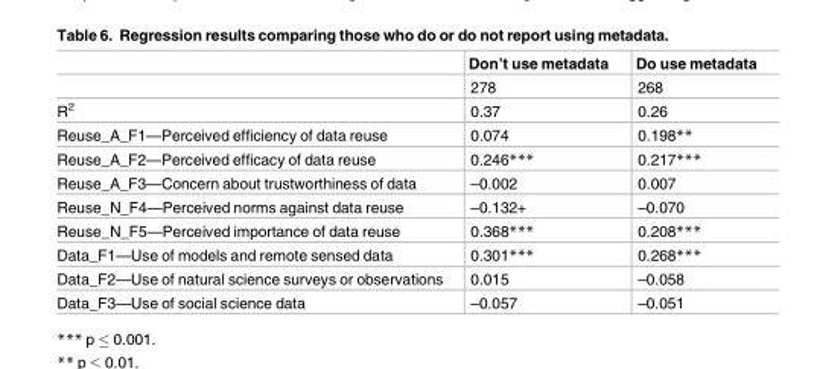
<table><thead><tr><td></td><td>Don’t use metadata</td><td>Do use metadata</td></tr></thead><tbody><tr><td></td><td>278</td><td>268</td></tr><tr><td>R<sup>2</sup></td><td>0.37</td><td>0.26</td></tr><tr><td>Reuse_A_F1—Perceived efficiency of data reuse</td><td>0.074</td><td>0.198**</td></tr><tr><td>Reuse_A_F2—Perceived efficacy of data reuse</td><td>0.246***</td><td>0.217***</td></tr><tr><td>Reuse_A_F3—Concern about trustworthiness of data</td><td>–0.002</td><td>0.007</td></tr><tr><td>Reuse_N_F4—Perceived norms against data reuse</td><td>–0.132+</td><td>–0.070</td></tr><tr><td>Reuse_N_F5—Perceived importance of data reuse</td><td>0.368***</td><td>0.208***</td></tr><tr><td>Data_F1—Use of models and remote sensed data</td><td>0.301***</td><td>0.268***</td></tr><tr><td>Data_F2—Use of natural science surveys or observations</td><td>0.015</td><td>–0.058</td></tr><tr><td>Data_F3—Use of social science data</td><td>–0.057</td><td>–0.051</td></tr></tbody></table>